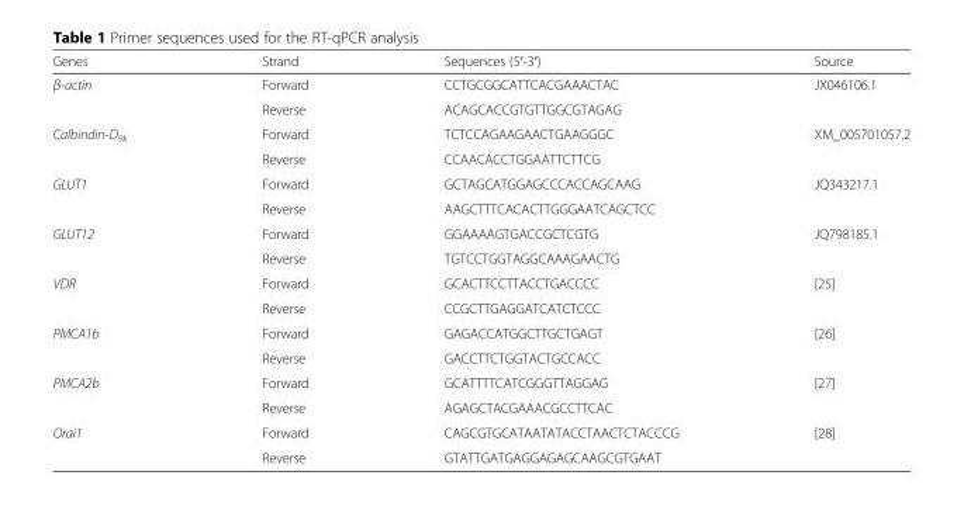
<table><thead><tr><td>Genes</td><td>Strand</td><td>Sequences (5′-3′)</td><td>Source</td></tr></thead><tbody><tr><td rowspan="2">β-actin</td><td>Forward</td><td>CCTGCGGCATTCACGAAACTAC</td><td rowspan="2">JX046106.1</td></tr><tr><td>Reverse</td><td>ACAGCACCGTGTTGGCGTAGAG</td></tr><tr><td rowspan="2">Calbindin-D<sub>9k</sub></td><td>Forward</td><td>TCTCCAGAAGAACTGAAGGGC</td><td rowspan="2">XM_005701057.2</td></tr><tr><td>Reverse</td><td>CCAACACCTGGAATTCTTCG</td></tr><tr><td rowspan="2">GLUT1</td><td>Forward</td><td>GCTAGCATGGAGCCCACCAGCAAG</td><td>JQ343217.1</td></tr><tr><td>Reverse</td><td>AAGCTTTCACACTTGGGAATCAGCTCC</td><td></td></tr><tr><td rowspan="2">GLUT12</td><td>Forward</td><td>GGAAAAGTGACCGCTCGTG</td><td rowspan="2">JQ798185.1</td></tr><tr><td>Reverse</td><td>TGTCCTGGTAGGCAAAGAACTG</td></tr><tr><td rowspan="2">VDR</td><td>Forward</td><td>GCACTTCCTTACCTGACCCC</td><td rowspan="2">[25]</td></tr><tr><td>Reverse</td><td>CCGCTTGAGGATCATCTCCC</td></tr><tr><td rowspan="2">PMCA1b</td><td>Forward</td><td>GAGACCATGGCTTGCTGAGT</td><td rowspan="2">[26]</td></tr><tr><td>Reverse</td><td>GACCTTCTGGTACTGCCACC</td></tr><tr><td rowspan="2">PMCA2b</td><td>Forward</td><td>GCATTTTCATCGGGTTAGGAG</td><td rowspan="2">[27]</td></tr><tr><td>Reverse</td><td>AGAGCTACGAAACGCCTTCAC</td></tr><tr><td rowspan="2">Orai1</td><td>Forward</td><td>CAGCGTGCATAATATACCTAACTCTACCCG</td><td rowspan="2">[28]</td></tr><tr><td>Reverse</td><td>GTATTGATGAGGAGAGCAAGCGTGAAT</td></tr></tbody></table>